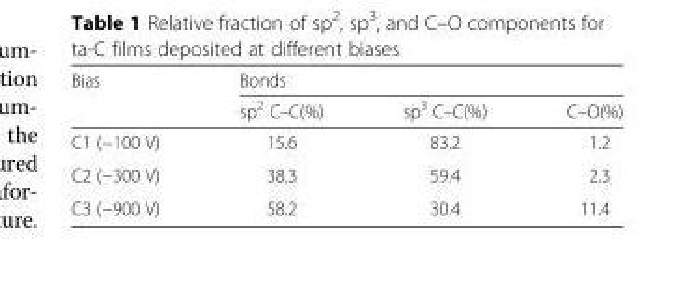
<table><thead><tr><td rowspan="2">Bias</td><td colspan="3">Bonds</td></tr><tr><td>sp<sup>2</sup> C–C(%)</td><td>sp<sup>3</sup> C–C(%)</td><td>C–O(%)</td></tr></thead><tbody><tr><td>C1 (−100 V)</td><td>15.6</td><td>83.2</td><td>1.2</td></tr><tr><td>C2 (−300 V)</td><td>38.3</td><td>59.4</td><td>2.3</td></tr><tr><td>C3 (−900 V)</td><td>58.2</td><td>30.4</td><td>11.4</td></tr></tbody></table>